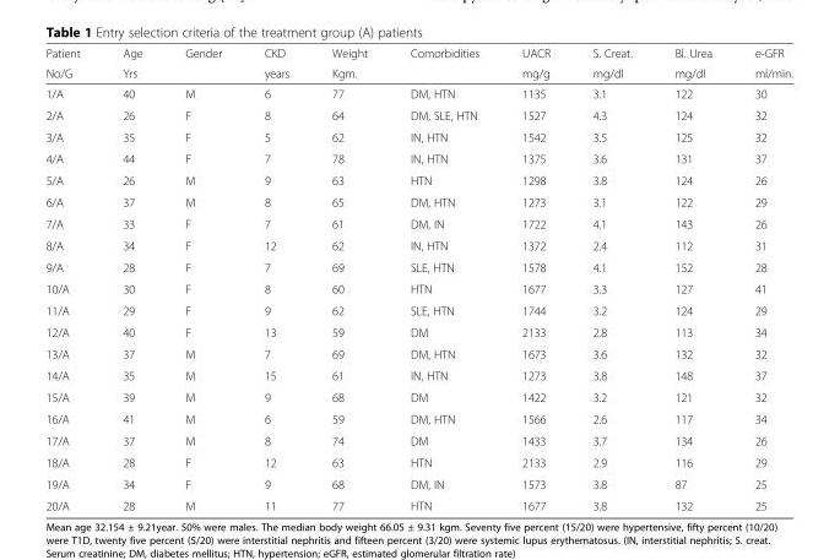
<table><thead><tr><td rowspan="2">Patient No/G</td><td rowspan="2">Age Yrs</td><td rowspan="2">Gender</td><td rowspan="2">CKD years</td><td rowspan="2">Weight Kgm.</td><td rowspan="2">Comorbidities</td><td rowspan="2">UACR mg/g</td><td rowspan="2">S. Creat. mg/dl</td><td rowspan="2">Bl. Urea mg/dl</td><td rowspan="2">e-GFR ml/min.</td></tr><tr></tr></thead><tbody><tr><td>1/A</td><td>40</td><td>M</td><td>6</td><td>77</td><td>DM, HTN</td><td>1135</td><td>3.1</td><td>122</td><td>30</td></tr><tr><td>2/A</td><td>26</td><td>F</td><td>8</td><td>64</td><td>DM, SLE, HTN</td><td>1527</td><td>4.3</td><td>124</td><td>32</td></tr><tr><td>3/A</td><td>35</td><td>F</td><td>5</td><td>62</td><td>IN, HTN</td><td>1542</td><td>3.5</td><td>125</td><td>32</td></tr><tr><td>4/A</td><td>44</td><td>F</td><td>7</td><td>78</td><td>IN, HTN</td><td>1375</td><td>3.6</td><td>131</td><td>37</td></tr><tr><td>5/A</td><td>26</td><td>M</td><td>9</td><td>63</td><td>HTN</td><td>1298</td><td>3.8</td><td>124</td><td>26</td></tr><tr><td>6/A</td><td>37</td><td>M</td><td>8</td><td>65</td><td>DM, HTN</td><td>1273</td><td>3.1</td><td>122</td><td>29</td></tr><tr><td>7/A</td><td>33</td><td>F</td><td>7</td><td>61</td><td>DM, IN</td><td>1722</td><td>4.1</td><td>143</td><td>26</td></tr><tr><td>8/A</td><td>34</td><td>F</td><td>12</td><td>62</td><td>IN, HTN</td><td>1372</td><td>2.4</td><td>112</td><td>31</td></tr><tr><td>9/A</td><td>28</td><td>F</td><td>7</td><td>69</td><td>SLE, HTN</td><td>1578</td><td>4.1</td><td>152</td><td>28</td></tr><tr><td>10/A</td><td>30</td><td>F</td><td>8</td><td>60</td><td>HTN</td><td>1677</td><td>3.3</td><td>127</td><td>41</td></tr><tr><td>11/A</td><td>29</td><td>F</td><td>9</td><td>62</td><td>SLE, HTN</td><td>1744</td><td>3.2</td><td>124</td><td>29</td></tr><tr><td>12/A</td><td>40</td><td>F</td><td>13</td><td>59</td><td>DM</td><td>2133</td><td>2.8</td><td>113</td><td>34</td></tr><tr><td>13/A</td><td>37</td><td>M</td><td>7</td><td>69</td><td>DM, HTN</td><td>1673</td><td>3.6</td><td>132</td><td>32</td></tr><tr><td>14/A</td><td>35</td><td>M</td><td>15</td><td>61</td><td>IN, HTN</td><td>1273</td><td>3.8</td><td>148</td><td>37</td></tr><tr><td>15/A</td><td>39</td><td>M</td><td>9</td><td>68</td><td>DM</td><td>1422</td><td>3.2</td><td>121</td><td>32</td></tr><tr><td>16/A</td><td>41</td><td>M</td><td>6</td><td>59</td><td>DM, HTN</td><td>1566</td><td>2.6</td><td>117</td><td>34</td></tr><tr><td>17/A</td><td>37</td><td>M</td><td>8</td><td>74</td><td>DM</td><td>1433</td><td>3.7</td><td>134</td><td>26</td></tr><tr><td>18/A</td><td>28</td><td>F</td><td>12</td><td>63</td><td>HTN</td><td>2133</td><td>2.9</td><td>116</td><td>29</td></tr><tr><td>19/A</td><td>34</td><td>F</td><td>9</td><td>68</td><td>DM, IN</td><td>1573</td><td>3.8</td><td>87</td><td>25</td></tr><tr><td>20/A</td><td>28</td><td>M</td><td>11</td><td>77</td><td>HTN</td><td>1677</td><td>3.8</td><td>132</td><td>25</td></tr></tbody></table>